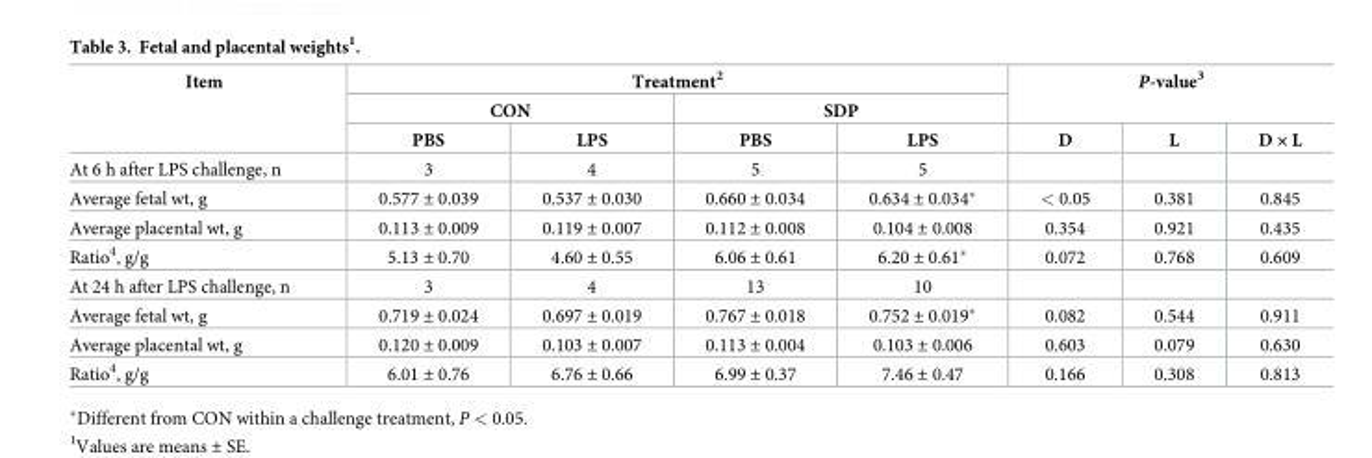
<table><thead><tr><td rowspan="3">Item</td><td colspan="4">Treatment<sup>2</sup></td><td rowspan="2" colspan="3">P-value<sup>3</sup></td></tr><tr><td colspan="2">CON</td><td colspan="2">SDP</td></tr><tr><td>PBS</td><td>LPS</td><td>PBS</td><td>LPS</td><td>D</td><td>L</td><td>D × L</td></tr></thead><tbody><tr><td>At 6 h after LPS challenge, n</td><td>3</td><td>4</td><td>5</td><td>5</td><td></td><td></td><td></td></tr><tr><td>Average fetal wt, g</td><td>0.577 ± 0.039</td><td>0.537 ± 0.030</td><td>0.660 ± 0.034</td><td>0.634 ± 0.034*</td><td>&lt; 0.05</td><td>0.381</td><td>0.845</td></tr><tr><td>Average placental wt, g</td><td>0.113 ± 0.009</td><td>0.119 ± 0.007</td><td>0.112 ± 0.008</td><td>0.104 ± 0.008</td><td>0.354</td><td>0.921</td><td>0.435</td></tr><tr><td>Ratio<sup>4</sup>, g/g</td><td>5.13 ± 0.70</td><td>4.60 ± 0.55</td><td>6.06 ± 0.61</td><td>6.20 ± 0.61*</td><td>0.072</td><td>0.768</td><td>0.609</td></tr><tr><td>At 24 h after LPS challenge, n</td><td>3</td><td>4</td><td>13</td><td>10</td><td></td><td></td><td></td></tr><tr><td>Average fetal wt, g</td><td>0.719 ± 0.024</td><td>0.697 ± 0.019</td><td>0.767 ± 0.018</td><td>0.752 ± 0.019*</td><td>0.082</td><td>0.544</td><td>0.911</td></tr><tr><td>Average placental wt, g</td><td>0.120 ± 0.009</td><td>0.103 ± 0.007</td><td>0.113 ± 0.004</td><td>0.103 ± 0.006</td><td>0.603</td><td>0.079</td><td>0.630</td></tr><tr><td>Ratio<sup>4</sup>, g/g</td><td>6.01 ± 0.76</td><td>6.76 ± 0.66</td><td>6.99 ± 0.37</td><td>7.46 ± 0.47</td><td>0.166</td><td>0.308</td><td>0.813</td></tr></tbody></table>